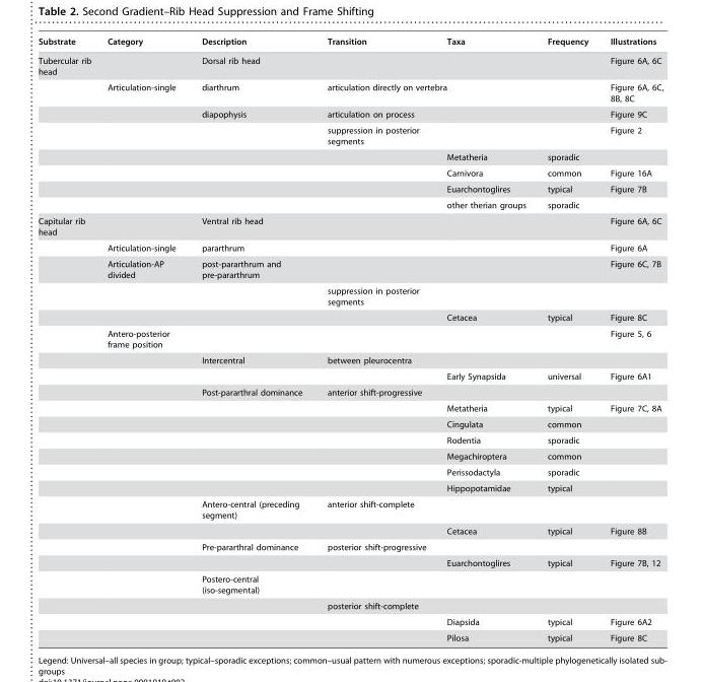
<table><thead><tr><td>Substrate</td><td>Category</td><td>Description</td><td>Transition</td><td>Taxa</td><td>Frequency</td><td>Illustrations</td></tr></thead><tbody><tr><td rowspan="8">Tubercular rib head</td><td></td><td>Dorsal rib head</td><td></td><td></td><td></td><td>Figure 6A, 6C</td></tr><tr><td>Articulation-single</td><td>diarthrum</td><td>articulation directly on vertebra</td><td></td><td></td><td>Figure 6A, 6C, 8B, 8C</td></tr><tr><td></td><td>diapophysis</td><td>articulation on process</td><td></td><td></td><td>Figure 9C</td></tr><tr><td></td><td></td><td>suppression in posterior segments</td><td></td><td></td><td>Figure 2</td></tr><tr><td></td><td></td><td></td><td>Metatheria</td><td>sporadic</td><td></td></tr><tr><td></td><td></td><td></td><td>Carnivora</td><td>common</td><td>Figure 16A</td></tr><tr><td></td><td></td><td></td><td>Euarchontoglires</td><td>typical</td><td>Figure 7B</td></tr><tr><td></td><td></td><td></td><td>other therian groups</td><td>sporadic</td><td></td></tr><tr><td rowspan="23">Capitular rib head</td><td></td><td>Ventral rib head</td><td></td><td></td><td></td><td>Figure 6A, 6C</td></tr><tr><td>Articulation-single</td><td>pararthrum</td><td></td><td></td><td></td><td>Figure 6A</td></tr><tr><td>Articulation-AP divided</td><td>post-pararthrum and pre-pararthrum</td><td></td><td></td><td></td><td>Figure 6C, 7B</td></tr><tr><td></td><td></td><td>suppression in posterior segments</td><td></td><td></td><td></td></tr><tr><td></td><td></td><td></td><td>Cetacea</td><td>typical</td><td>Figure 8C</td></tr><tr><td>Antero-posterior frame position</td><td></td><td></td><td></td><td></td><td>Figure 5, 6</td></tr><tr><td></td><td>Intercentral</td><td>between pleurocentra</td><td></td><td></td><td></td></tr><tr><td></td><td></td><td></td><td>Early Synapsida</td><td>universal</td><td>Figure 6A1</td></tr><tr><td></td><td>Post-pararthral dominance</td><td>anterior shift-progressive</td><td></td><td></td><td></td></tr><tr><td></td><td></td><td></td><td>Metatheria</td><td>typical</td><td>Figure 7C, 8A</td></tr><tr><td></td><td></td><td></td><td>Cingulata</td><td>common</td><td></td></tr><tr><td></td><td></td><td></td><td>Rodentia</td><td>sporadic</td><td></td></tr><tr><td></td><td></td><td></td><td>Megachiroptera</td><td>common</td><td></td></tr><tr><td></td><td></td><td></td><td>Perissodactyla</td><td>sporadic</td><td></td></tr><tr><td></td><td></td><td></td><td>Hippopotamidae</td><td>typical</td><td></td></tr><tr><td></td><td>Antero-central (preceding segment)</td><td>anterior shift-complete</td><td></td><td></td><td></td></tr><tr><td></td><td></td><td></td><td>Cetacea</td><td>typical</td><td>Figure 8B</td></tr><tr><td></td><td>Pre-pararthral dominance</td><td>posterior shift-progressive</td><td></td><td></td><td></td></tr><tr><td></td><td></td><td></td><td>Euarchontoglires</td><td>typical</td><td>Figure 7B, 12</td></tr><tr><td></td><td>Postero-central (iso-segmental)</td><td></td><td></td><td></td><td></td></tr><tr><td></td><td></td><td>posterior shift-complete</td><td></td><td></td><td></td></tr><tr><td></td><td></td><td></td><td>Diapsida</td><td>typical</td><td>Figure 6A2</td></tr><tr><td></td><td></td><td></td><td>Pilosa</td><td>typical</td><td>Figure 8C</td></tr></tbody></table>